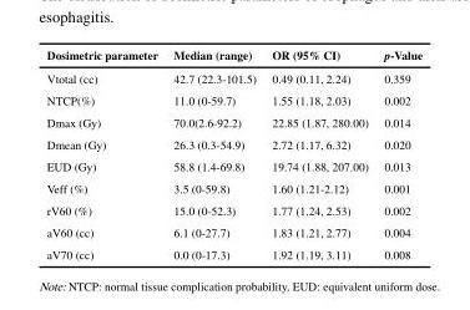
<table><thead><tr><td>Dosimetric parameter</td><td>Median (range)</td><td>OR (95% CI)</td><td>p-Value</td></tr></thead><tbody><tr><td>Vtotal (cc)</td><td>42.7 (22.3-101.5)</td><td>0.49 (0.11, 2.24)</td><td>0.359</td></tr><tr><td>NTCP(%)</td><td>11.0 (0-59.7)</td><td>1.55 (1.18, 2.03)</td><td>0.002</td></tr><tr><td>Dmax (Gy)</td><td>70.0(2.6-92.2)</td><td>22.85 (1.87, 280.00)</td><td>0.014</td></tr><tr><td>Dmean (Gy)</td><td>26.3 (0.3-54.9)</td><td>2.72 (1.17, 6.32)</td><td>0.020</td></tr><tr><td>EUD (Gy)</td><td>58.8 (1.4-69.8)</td><td>19.74 (1.88, 207.00)</td><td>0.013</td></tr><tr><td>Veff (%)</td><td>3.5 (0-59.8)</td><td>1.60 (1.21-2.12)</td><td>0.001</td></tr><tr><td>rV60 (%)</td><td>15.0 (0-52.3)</td><td>1.77 (1.24, 2.53)</td><td>0.002</td></tr><tr><td>aV60 (cc)</td><td>6.1 (0-27.7)</td><td>1.83 (1.21, 2.77)</td><td>0.004</td></tr><tr><td>aV70 (cc)</td><td>0.0 (0-17.3)</td><td>1.92 (1.19, 3.11)</td><td>0.008</td></tr></tbody></table>